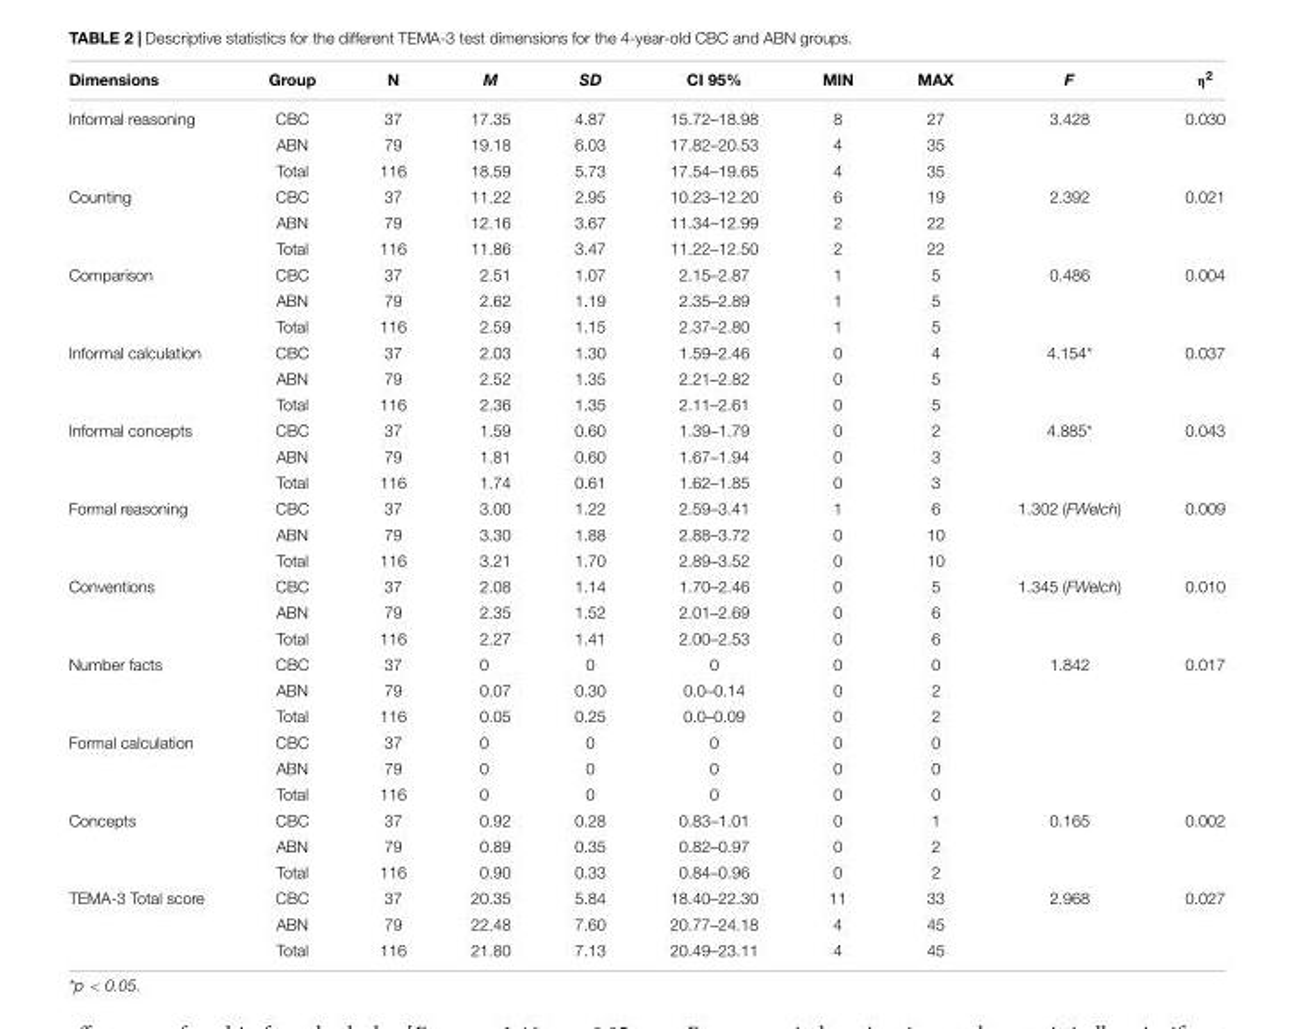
<table><thead><tr><td>Dimensions</td><td>Group</td><td>N</td><td>M</td><td>SD</td><td>CI 95%</td><td>MIN</td><td>MAX</td><td>F</td><td>η<sup>2</sup></td></tr></thead><tbody><tr><td rowspan="3">Informal reasoning</td><td>CBC</td><td>37</td><td>17.35</td><td>4.87</td><td>15.72–18.98</td><td>8</td><td>27</td><td>3.428</td><td>0.030</td></tr><tr><td>ABN</td><td>79</td><td>19.18</td><td>6.03</td><td>17.82–20.53</td><td>4</td><td>35</td><td></td><td></td></tr><tr><td>Total</td><td>116</td><td>18.59</td><td>5.73</td><td>17.54–19.65</td><td>4</td><td>35</td><td></td><td></td></tr><tr><td rowspan="3">Counting</td><td>CBC</td><td>37</td><td>11.22</td><td>2.95</td><td>10.23–12.20</td><td>6</td><td>19</td><td>2.392</td><td>0.021</td></tr><tr><td>ABN</td><td>79</td><td>12.16</td><td>3.67</td><td>11.34–12.99</td><td>2</td><td>22</td><td></td><td></td></tr><tr><td>Total</td><td>116</td><td>11.86</td><td>3.47</td><td>11.22–12.50</td><td>2</td><td>22</td><td></td><td></td></tr><tr><td rowspan="3">Comparison</td><td>CBC</td><td>37</td><td>2.51</td><td>1.07</td><td>2.15–2.87</td><td>1</td><td>5</td><td>0.486</td><td>0.004</td></tr><tr><td>ABN</td><td>79</td><td>2.62</td><td>1.19</td><td>2.35–2.89</td><td>1</td><td>5</td><td></td><td></td></tr><tr><td>Total</td><td>116</td><td>2.59</td><td>1.15</td><td>2.37–2.80</td><td>1</td><td>5</td><td></td><td></td></tr><tr><td rowspan="3">Informal calculation</td><td>CBC</td><td>37</td><td>2.03</td><td>1.30</td><td>1.59–2.46</td><td>0</td><td>4</td><td>4.154*</td><td>0.037</td></tr><tr><td>ABN</td><td>79</td><td>2.52</td><td>1.35</td><td>2.21–2.82</td><td>0</td><td>5</td><td></td><td></td></tr><tr><td>Total</td><td>116</td><td>2.36</td><td>1.35</td><td>2.11–2.61</td><td>0</td><td>5</td><td></td><td></td></tr><tr><td rowspan="3">Informal concepts</td><td>CBC</td><td>37</td><td>1.59</td><td>0.60</td><td>1.39–1.79</td><td>0</td><td>2</td><td>4.885*</td><td>0.043</td></tr><tr><td>ABN</td><td>79</td><td>1.81</td><td>0.60</td><td>1.67–1.94</td><td>0</td><td>3</td><td></td><td></td></tr><tr><td>Total</td><td>116</td><td>1.74</td><td>0.61</td><td>1.62–1.85</td><td>0</td><td>3</td><td></td><td></td></tr><tr><td rowspan="3">Formal reasoning</td><td>CBC</td><td>37</td><td>3.00</td><td>1.22</td><td>2.59–3.41</td><td>1</td><td>6</td><td>1.302 (FWelch)</td><td>0.009</td></tr><tr><td>ABN</td><td>79</td><td>3.30</td><td>1.88</td><td>2.88–3.72</td><td>0</td><td>10</td><td></td><td></td></tr><tr><td>Total</td><td>116</td><td>3.21</td><td>1.70</td><td>2.89–3.52</td><td>0</td><td>10</td><td></td><td></td></tr><tr><td rowspan="3">Conventions</td><td>CBC</td><td>37</td><td>2.08</td><td>1.14</td><td>1.70–2.46</td><td>0</td><td>5</td><td>1.345 (FWelch)</td><td>0.010</td></tr><tr><td>ABN</td><td>79</td><td>2.35</td><td>1.52</td><td>2.01–2.69</td><td>0</td><td>6</td><td></td><td></td></tr><tr><td>Total</td><td>116</td><td>2.27</td><td>1.41</td><td>2.00–2.53</td><td>0</td><td>6</td><td></td><td></td></tr><tr><td rowspan="3">Number facts</td><td>CBC</td><td>37</td><td>0</td><td>0</td><td>0</td><td>0</td><td>0</td><td>1.842</td><td>0.017</td></tr><tr><td>ABN</td><td>79</td><td>0.07</td><td>0.30</td><td>0.0–0.14</td><td>0</td><td>2</td><td></td><td></td></tr><tr><td>Total</td><td>116</td><td>0.05</td><td>0.25</td><td>0.0–0.09</td><td>0</td><td>2</td><td></td><td></td></tr><tr><td rowspan="3">Formal calculation</td><td>CBC</td><td>37</td><td>0</td><td>0</td><td>0</td><td>0</td><td>0</td><td></td><td></td></tr><tr><td>ABN</td><td>79</td><td>0</td><td>0</td><td>0</td><td>0</td><td>0</td><td></td><td></td></tr><tr><td>Total</td><td>116</td><td>0</td><td>0</td><td>0</td><td>0</td><td>0</td><td></td><td></td></tr><tr><td rowspan="3">Concepts</td><td>CBC</td><td>37</td><td>0.92</td><td>0.28</td><td>0.83–1.01</td><td>0</td><td>1</td><td>0.165</td><td>0.002</td></tr><tr><td>ABN</td><td>79</td><td>0.89</td><td>0.35</td><td>0.82–0.97</td><td>0</td><td>2</td><td></td><td></td></tr><tr><td>Total</td><td>116</td><td>0.90</td><td>0.33</td><td>0.84–0.96</td><td>0</td><td>2</td><td></td><td></td></tr><tr><td rowspan="3">TEMA-3 Total score</td><td>CBC</td><td>37</td><td>20.35</td><td>5.84</td><td>18.40–22.30</td><td>11</td><td>33</td><td>2.968</td><td>0.027</td></tr><tr><td>ABN</td><td>79</td><td>22.48</td><td>7.60</td><td>20.77–24.18</td><td>4</td><td>45</td><td></td><td></td></tr><tr><td>Total</td><td>116</td><td>21.80</td><td>7.13</td><td>20.49–23.11</td><td>4</td><td>45</td><td></td><td></td></tr></tbody></table>